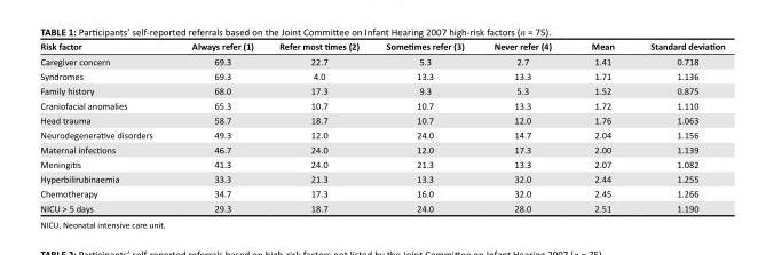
<table><thead><tr><td>Risk factor</td><td>Always refer (1)</td><td>Refer most times (2)</td><td>Sometimes refer (3)</td><td>Never refer (4)</td><td>Mean</td><td>Standard deviation</td></tr></thead><tbody><tr><td>Caregiver concern</td><td>69.3</td><td>22.7</td><td>5.3</td><td>2.7</td><td>1.41</td><td>0.718</td></tr><tr><td>Syndromes</td><td>69.3</td><td>4.0</td><td>13.3</td><td>13.3</td><td>1.71</td><td>1.136</td></tr><tr><td>Family history</td><td>68.0</td><td>17.3</td><td>9.3</td><td>5.3</td><td>1.52</td><td>0.875</td></tr><tr><td>Craniofacial anomalies</td><td>65.3</td><td>10.7</td><td>10.7</td><td>13.3</td><td>1.72</td><td>1.110</td></tr><tr><td>Head trauma</td><td>58.7</td><td>18.7</td><td>10.7</td><td>12.0</td><td>1.76</td><td>1.063</td></tr><tr><td>Neurodegenerative disorders</td><td>49.3</td><td>12.0</td><td>24.0</td><td>14.7</td><td>2.04</td><td>1.156</td></tr><tr><td>Maternal infections</td><td>46.7</td><td>24.0</td><td>12.0</td><td>17.3</td><td>2.00</td><td>1.139</td></tr><tr><td>Meningitis</td><td>41.3</td><td>24.0</td><td>21.3</td><td>13.3</td><td>2.07</td><td>1.082</td></tr><tr><td>Hyperbilirubinaemia</td><td>33.3</td><td>21.3</td><td>13.3</td><td>32.0</td><td>2.44</td><td>1.255</td></tr><tr><td>Chemotherapy</td><td>34.7</td><td>17.3</td><td>16.0</td><td>32.0</td><td>2.45</td><td>1.266</td></tr><tr><td>NICU &gt; 5 days</td><td>29.3</td><td>18.7</td><td>24.0</td><td>28.0</td><td>2.51</td><td>1.190</td></tr></tbody></table>